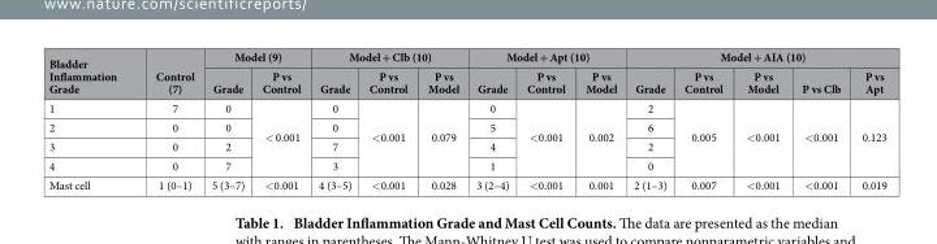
<table><thead><tr><td rowspan="2">Bladder Inflammation Grade</td><td rowspan="2">Control (7)</td><td colspan="2">Model (9)</td><td colspan="3">Model + Clb (10)</td><td colspan="3">Model + Apt (10)</td><td colspan="5">Model + AIA (10)</td></tr><tr><td>Grade</td><td>P vs Control</td><td>Grade</td><td>P vs Control</td><td>P vs Model</td><td>Grade</td><td>P vs Control</td><td>P vs Model</td><td>Grade</td><td>P vs Control</td><td>P vs Model</td><td>P vs Clb</td><td>P vs Apt</td></tr></thead><tbody><tr><td>1</td><td>7</td><td>0</td><td rowspan="4">&lt; 0.001</td><td>0</td><td rowspan="4">&lt; 0.001</td><td rowspan="4">0.079</td><td>0</td><td rowspan="4">&lt; 0.001</td><td rowspan="4">0.002</td><td>2</td><td rowspan="4">0.005</td><td rowspan="4">&lt; 0.001</td><td rowspan="4">&lt; 0.001</td><td rowspan="4">0.123</td></tr><tr><td>2</td><td>0</td><td>0</td><td>0</td><td>5</td><td>6</td></tr><tr><td>3</td><td>0</td><td>2</td><td>7</td><td>4</td><td>2</td></tr><tr><td>4</td><td>0</td><td>7</td><td>3</td><td>1</td><td>0</td></tr><tr><td>Mast cell</td><td>1 (0–1)</td><td>5 (3–7)</td><td>&lt; 0.001</td><td>4 (3–5)</td><td>&lt; 0.001</td><td>0.028</td><td>3 (2–4)</td><td>&lt; 0.001</td><td>0.001</td><td>2 (1–3)</td><td>0.007</td><td>&lt; 0.001</td><td>&lt; 0.001</td><td>0.019</td></tr></tbody></table>